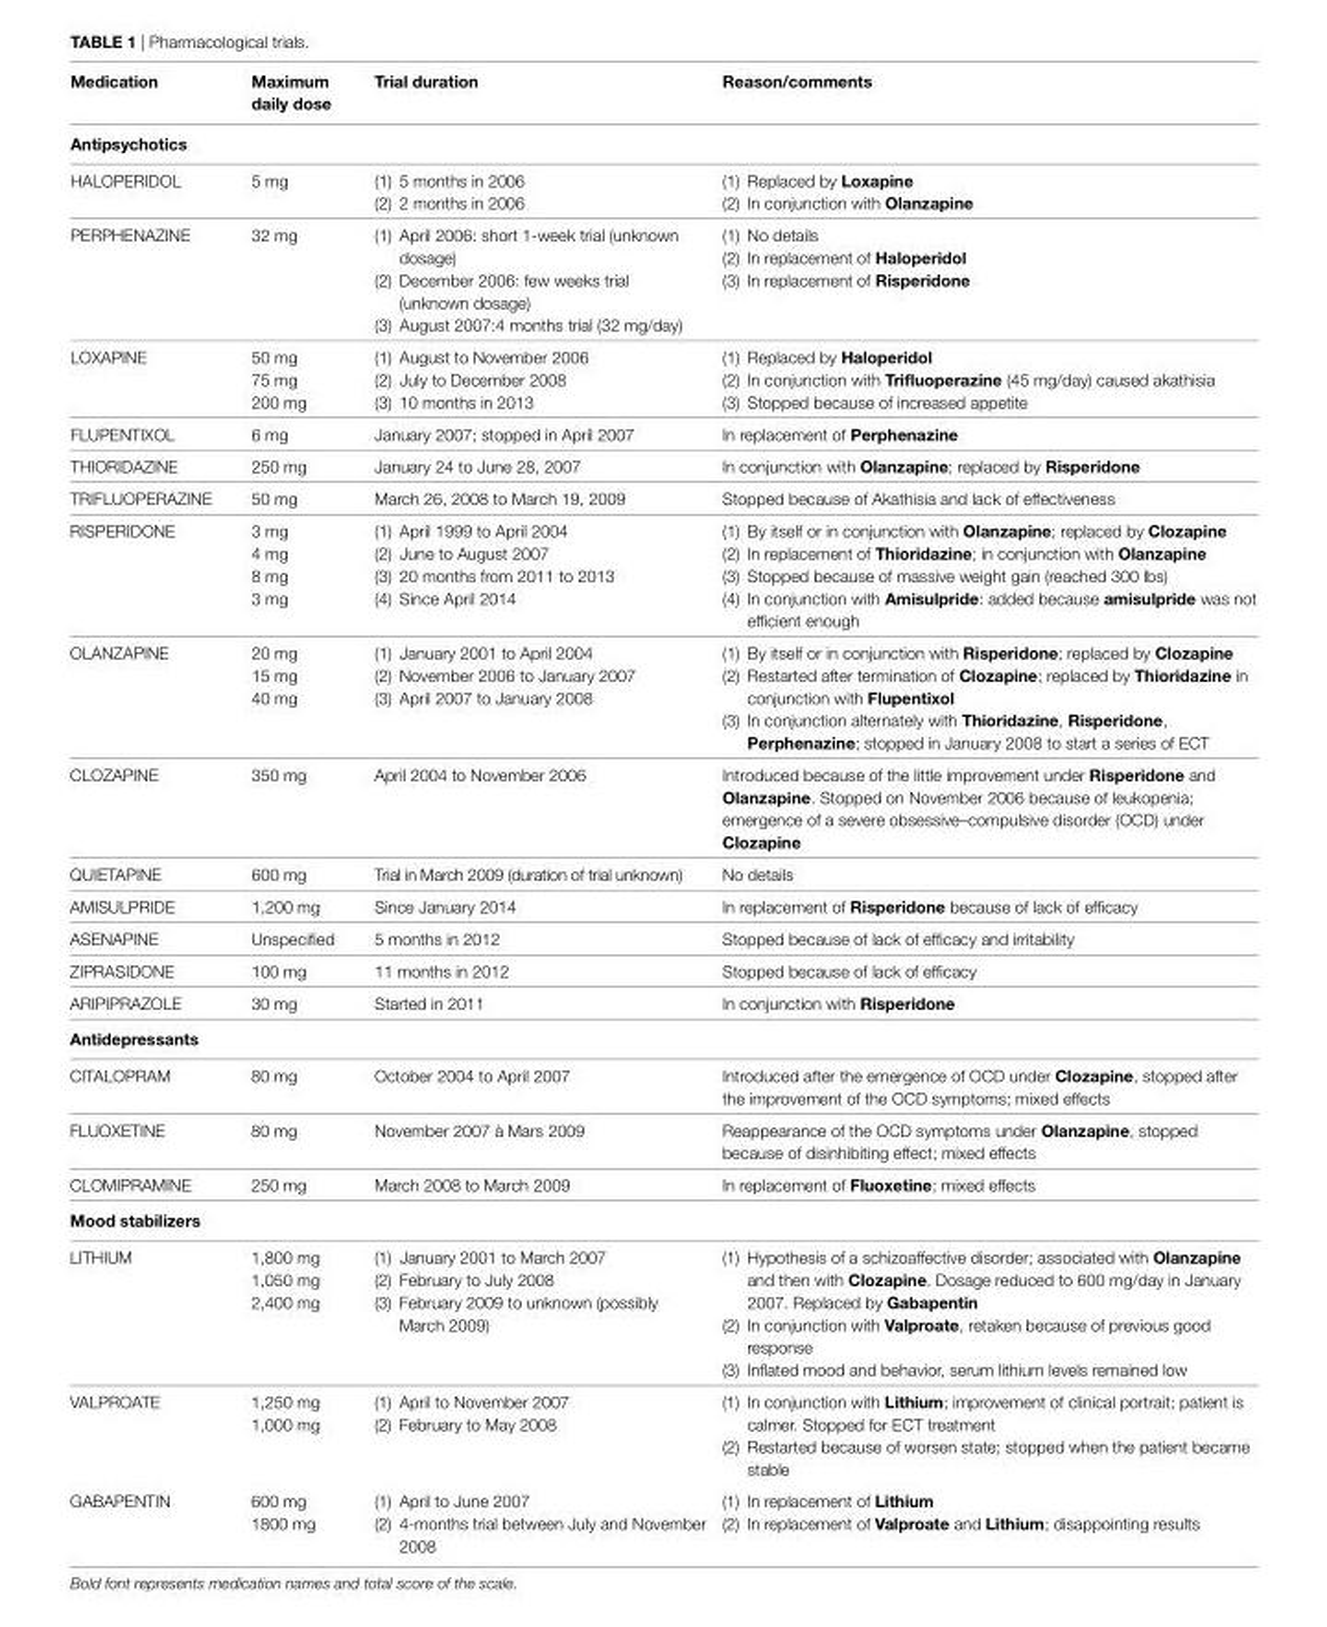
<table><thead><tr><td>Medication</td><td>Maximum daily dose</td><td>trial duration</td><td>Reason/comments</td></tr></thead><tbody><tr><td colspan="4">antipsychotics</td></tr><tr><td>HALOPERIDOL</td><td>5 mg</td><td>(1) 5 months in 2006 (2) 2 months in 2006</td><td>(1) Replaced by Loxapine (2) In conjunction with olanzapine</td></tr><tr><td>PERPHENAZINE</td><td>32 mg</td><td>(1) April 2006: short 1-week trial (unknown dosage) (2) December 2006: few weeks trial (unknown dosage) (3) August 2007:4 months trial (32 mg/day)</td><td>(1) No details (2) In replacement of Haloperidol (3) In replacement of Risperidone</td></tr><tr><td>LOXAPINE</td><td>50 mg 75 mg 200 mg</td><td>(1) August to November 2006 (2) July to December 2008 (3) 10 months in 2013</td><td>(1) Replaced by Haloperidol (2) In conjunction with trifluoperazine (45 mg/day) caused akathisia (3) Stopped because of increased appetite</td></tr><tr><td>FLUPENTIXOL</td><td>6 mg</td><td>January 2007; stopped in April 2007</td><td>In replacement of perphenazine</td></tr><tr><td>THIORIDAZINE</td><td>250 mg</td><td>January 24 to June 28, 2007</td><td>In conjunction with olanzapine; replaced by Risperidone</td></tr><tr><td>TRIFLUOPERAZINE</td><td>50 mg</td><td>March 26, 2008 to March 19, 2009</td><td>Stopped because of Akathisia and lack of effectiveness</td></tr><tr><td>RISPERIDONE</td><td>3 mg 4 mg 8 mg 3 mg</td><td>(1) April 1999 to April 2004 (2) June to August 2007 (3) 20 months from 2011 to 2013 (4) Since April 2014</td><td>(1) By itself or in conjunction with olanzapine; replaced by Clozapine (2) In replacement of thioridazine; in conjunction with olanzapine (3) Stopped because of massive weight gain (reached 300 lbs) (4) In conjunction with amisulpride: added because amisulpride was not efficient enough</td></tr><tr><td>OLANZAPINE</td><td>20 mg 15 mg 40 mg</td><td>(1) January 2001 to April 2004 (2) November 2006 to January 2007 (3) April 2007 to January 2008</td><td>(1) By itself or in conjunction with Risperidone; replaced by Clozapine (2) Restarted after termination of Clozapine; replaced by thioridazine in conjunction with Flupentixol (3) In conjunction alternately with thioridazine, Risperidone, perphenazine; stopped in January 2008 to start a series of ECT</td></tr><tr><td>CLOZAPINE</td><td>350 mg</td><td>April 2004 to November 2006</td><td>Introduced because of the little improvement under Risperidone and olanzapine. Stopped on November 2006 because of leukopenia; emergence of a severe obsessive–compulsive disorder (OCD) under Clozapine</td></tr><tr><td>QUIETAPINE</td><td>600 mg</td><td>Trial in March 2009 (duration of trial unknown)</td><td>No details</td></tr><tr><td>AMISULPRIDE</td><td>1,200 mg</td><td>Since January 2014</td><td>In replacement of Risperidone because of lack of efficacy</td></tr><tr><td>ASENAPINE</td><td>Unspecified</td><td>5 months in 2012</td><td>Stopped because of lack of efficacy and irritability</td></tr><tr><td>ZIPRASIDONE</td><td>100 mg</td><td>11 months in 2012</td><td>Stopped because of lack of efficacy</td></tr><tr><td>ARIPIPRAZOLE</td><td>30 mg</td><td>Started in 2011</td><td>In conjunction with Risperidone</td></tr><tr><td colspan="4">antidepressants</td></tr><tr><td>CITALOPRAM</td><td>80 mg</td><td>October 2004 to April 2007</td><td>Introduced after the emergence of OCD under Clozapine, stopped after the improvement of the OCD symptoms; mixed effects</td></tr><tr><td>FLUOXETINE</td><td>80 mg</td><td>November 2007 à Mars 2009</td><td>Reappearance of the OCD symptoms under olanzapine, stopped because of disinhibiting effect; mixed effects</td></tr><tr><td>CLOMIPRAMINE</td><td>250 mg</td><td>March 2008 to March 2009</td><td>In replacement of Fluoxetine; mixed effects</td></tr><tr><td colspan="4">Mood stabilizers</td></tr><tr><td>LITHIUM</td><td>1,800 mg 1,050 mg 2,400 mg</td><td>(1) January 2001 to March 2007 (2) February to July 2008 (3) February 2009 to unknown (possibly March 2009)</td><td>(1) Hypothesis of a schizoaffective disorder; associated with olanzapine and then with Clozapine. Dosage reduced to 600 mg/day in January 2007. Replaced by Gabapentin (2) In conjunction with Valproate, retaken because of previous good response (3) Inflated mood and behavior, serum lithium levels remained low</td></tr><tr><td>VALPROATE</td><td>1,250 mg 1,000 mg</td><td>(1) April to November 2007 (2) February to May 2008</td><td>(1) In conjunction with Lithium; improvement of clinical portrait; patient is calmer. Stopped for ECT treatment (2) Restarted because of worsen state; stopped when the patient became stable</td></tr><tr><td>GABAPENTIN</td><td>600 mg 1800 mg</td><td>(1) April to June 2007 (2) 4-months trial between July and November 2008</td><td>(1) In replacement of Lithium (2) In replacement of Valproate and Lithium; disappointing results</td></tr></tbody></table>